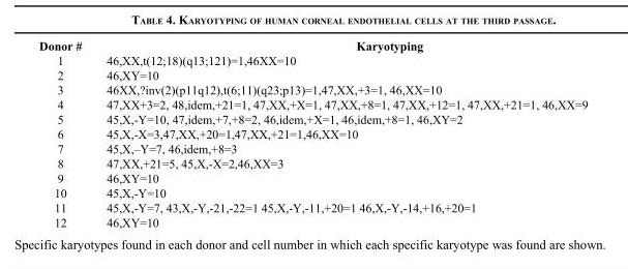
<table><tbody><tr><td>Donor #</td><td>Karyotyping</td></tr><tr><td>1</td><td>46,XX,t(12;18)(q13;121)=1,46XX=10</td></tr><tr><td>2</td><td>46,XY=10</td></tr><tr><td>3</td><td>46XX,?inv(2)(p11q12),t(6;11)(q23;p13)=1,47,XX,+3=1, 46,XX=10</td></tr><tr><td>4</td><td>47,XX+3=2, 48,idem,+21=1, 47,XX,+X=1, 47,XX,+8=1, 47,XX,+12=1, 47,XX,+21=1, 46,XX=9</td></tr><tr><td>5</td><td>45,X,-Y=10, 47,idem,+7,+8=2, 46,idem,+X=1, 46,idem,+8=1, 46,XY=2</td></tr><tr><td>6</td><td>45,X,-X=3,47,XX,+20=1,47,XX,+21=1,46,XX=10</td></tr><tr><td>7</td><td>45,X,–Y=7, 46,idem,+8=3</td></tr><tr><td>8</td><td>47,XX,+21=5, 45,X,-X=2,46,XX=3</td></tr><tr><td>9</td><td>46,XY=10</td></tr><tr><td>10</td><td>45,X,-Y=10</td></tr><tr><td>11</td><td>45,X,-Y=7, 43,X,-Y,-21,-22=1 45,X,-Y,-11,+20=1 46,X,-Y,-14,+16,+20=1</td></tr><tr><td>12</td><td>46,XY=10</td></tr></tbody></table>